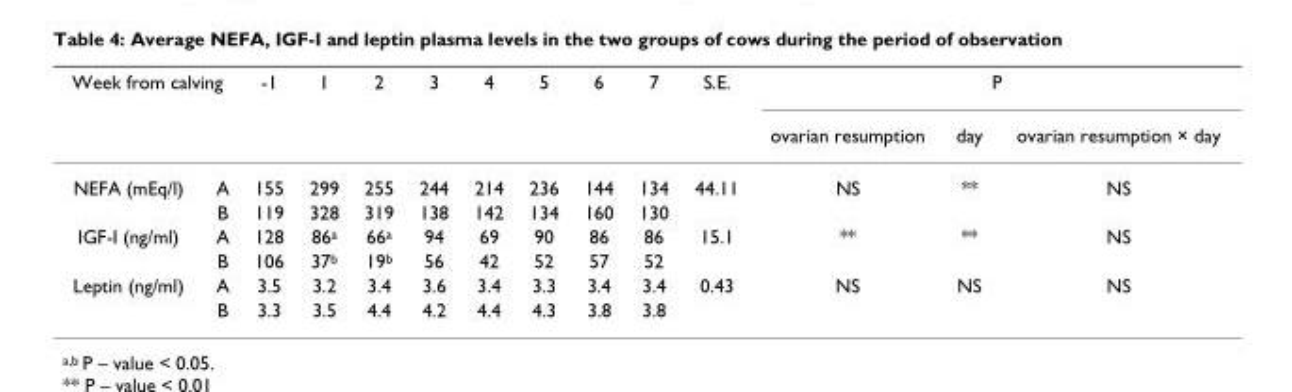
<table><thead><tr><td colspan="2">Week from calving</td><td rowspan="2">-1</td><td rowspan="2">1</td><td rowspan="2">2</td><td rowspan="2">3</td><td rowspan="2">4</td><td rowspan="2">5</td><td rowspan="2">6</td><td rowspan="2">7</td><td rowspan="2">S.E.</td><td colspan="3">P</td></tr><tr><td></td><td></td><td>ovarian resumption</td><td>day</td><td>ovarian resumption × day</td></tr></thead><tbody><tr><td rowspan="2">NEFA (mEq/l)</td><td>A</td><td>155</td><td>299</td><td>255</td><td>244</td><td>214</td><td>236</td><td>144</td><td>134</td><td>44.11</td><td>NS</td><td>**</td><td>NS</td></tr><tr><td>B</td><td>119</td><td>328</td><td>319</td><td>138</td><td>142</td><td>134</td><td>160</td><td>130</td><td></td><td></td><td></td><td></td></tr><tr><td rowspan="2">IGF-I (ng/ml)</td><td>A</td><td>128</td><td>86<sup>a</sup></td><td>66<sup>a</sup></td><td>94</td><td>69</td><td>90</td><td>86</td><td>86</td><td>15.1</td><td>**</td><td>**</td><td>NS</td></tr><tr><td>B</td><td>106</td><td>37<sup>b</sup></td><td>19<sup>b</sup></td><td>56</td><td>42</td><td>52</td><td>57</td><td>52</td><td></td><td></td><td></td><td></td></tr><tr><td rowspan="2">Leptin (ng/ml)</td><td>A</td><td>3.5</td><td>3.2</td><td>3.4</td><td>3.6</td><td>3.4</td><td>3.3</td><td>3.4</td><td>3.4</td><td>0.43</td><td>NS</td><td>NS</td><td>NS</td></tr><tr><td>B</td><td>3.3</td><td>3.5</td><td>4.4</td><td>4.2</td><td>4.4</td><td>4.3</td><td>3.8</td><td>3.8</td><td></td><td></td><td></td><td></td></tr></tbody></table>